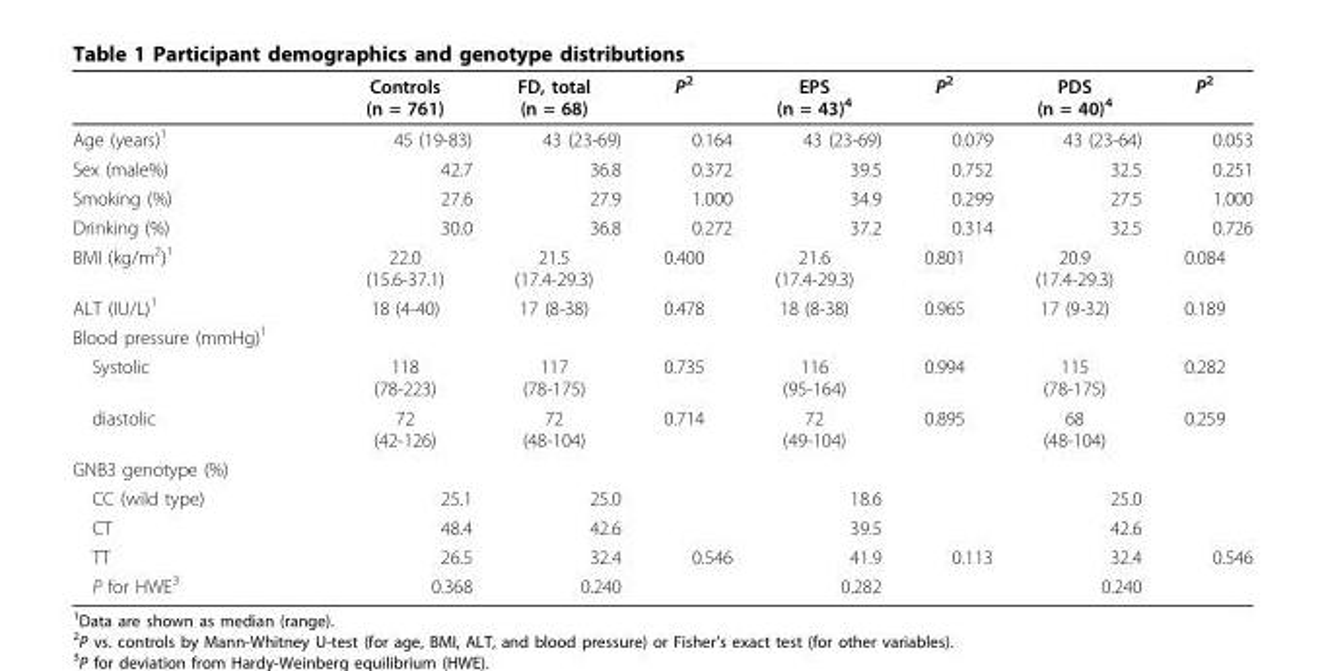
<table><thead><tr><td></td><td>Controls (n = 761)</td><td>FD, total (n = 68)</td><td>P<sup>2</sup></td><td>EPS (n = 43)<sup>4</sup></td><td>P<sup>2</sup></td><td>PDS (n = 40)<sup>4</sup></td><td>P<sup>2</sup></td></tr></thead><tbody><tr><td>Age (years)<sup>1</sup></td><td>45 (19-83)</td><td>43 (23-69)</td><td>0.164</td><td>43 (23-69)</td><td>0.079</td><td>43 (23-64)</td><td>0.053</td></tr><tr><td>Sex (male%)</td><td>42.7</td><td>36.8</td><td>0.372</td><td>39.5</td><td>0.752</td><td>32.5</td><td>0.251</td></tr><tr><td>Smoking (%)</td><td>27.6</td><td>27.9</td><td>1.000</td><td>34.9</td><td>0.299</td><td>27.5</td><td>1.000</td></tr><tr><td>Drinking (%)</td><td>30.0</td><td>36.8</td><td>0.272</td><td>37.2</td><td>0.314</td><td>32.5</td><td>0.726</td></tr><tr><td>BMI (kg/m<sup>2</sup>)<sup>1</sup></td><td>22.0 (15.6-37.1)</td><td>21.5 (17.4-29.3)</td><td>0.400</td><td>21.6 (17.4-29.3)</td><td>0.801</td><td>20.9 (17.4-29.3)</td><td>0.084</td></tr><tr><td>ALT (IU/L)<sup>1</sup></td><td>18 (4-40)</td><td>17 (8-38)</td><td>0.478</td><td>18 (8-38)</td><td>0.965</td><td>17 (9-32)</td><td>0.189</td></tr><tr><td colspan="8">Blood pressure (mmHg)<sup>1</sup></td></tr><tr><td>Systolic</td><td>118 (78-223)</td><td>117 (78-175)</td><td>0.735</td><td>116 (95-164)</td><td>0.994</td><td>115 (78-175)</td><td>0.282</td></tr><tr><td>diastolic</td><td>72 (42-126)</td><td>72 (48-104)</td><td>0.714</td><td>72 (49-104)</td><td>0.895</td><td>68 (48-104)</td><td>0.259</td></tr><tr><td colspan="8">GNB3 genotype (%)</td></tr><tr><td>CC (wild type)</td><td>25.1</td><td>25.0</td><td></td><td>18.6</td><td></td><td>25.0</td><td></td></tr><tr><td>CT</td><td>48.4</td><td>42.6</td><td></td><td>39.5</td><td></td><td>42.6</td><td></td></tr><tr><td>TT</td><td>26.5</td><td>32.4</td><td>0.546</td><td>41.9</td><td>0.113</td><td>32.4</td><td>0.546</td></tr><tr><td>P for HWE<sup>3</sup></td><td>0.368</td><td>0.240</td><td></td><td>0.282</td><td></td><td>0.240</td><td></td></tr></tbody></table>